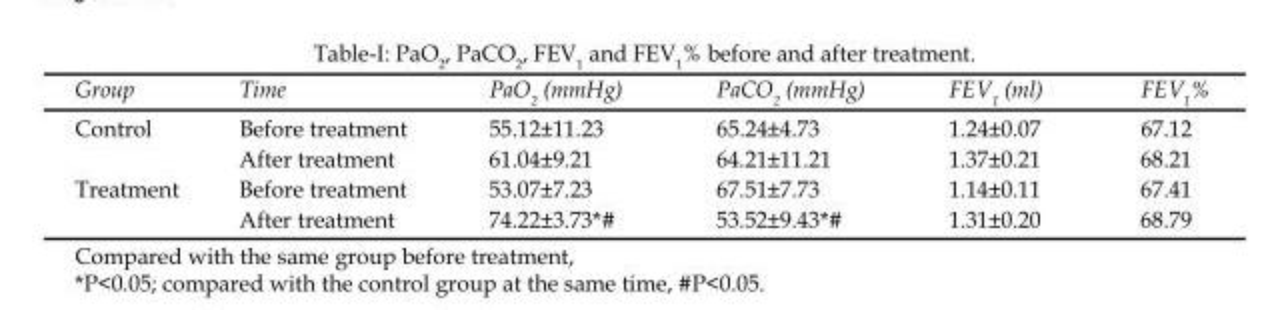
<table><thead><tr><td>Group</td><td>Time</td><td>PaO<sub>2</sub> (mmHg)</td><td>PaCO<sub>2</sub> (mmHg)</td><td>FEV<sub>1</sub> (ml)</td><td>FEV<sub>1</sub>%</td></tr></thead><tbody><tr><td rowspan="2">Control</td><td>Before treatment</td><td>55.12±11.23</td><td>65.24±4.73</td><td>1.24±0.07</td><td>67.12</td></tr><tr><td>After treatment</td><td>61.04±9.21</td><td>64.21±11.21</td><td>1.37±0.21</td><td>68.21</td></tr><tr><td rowspan="2">Treatment</td><td>Before treatment</td><td>53.07±7.23</td><td>67.51±7.73</td><td>1.14±0.11</td><td>67.41</td></tr><tr><td>After treatment</td><td>74.22±3.73*#</td><td>53.52±9.43*#</td><td>1.31±0.20</td><td>68.79</td></tr></tbody></table>